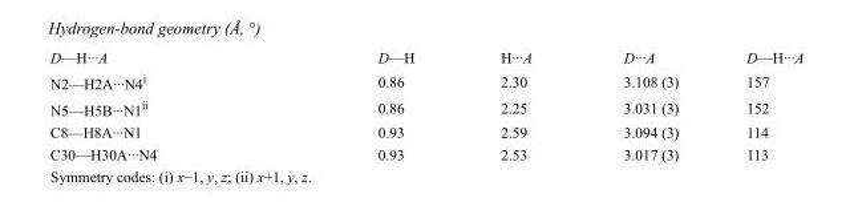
<table><tbody><tr><td>D—H···A</td><td>D—H</td><td>H···A</td><td>D···A</td><td>D—H···A</td></tr><tr><td>N2—H2A···N4<sup>i</sup></td><td>0.86</td><td>2.30</td><td>3.108 (3)</td><td>157</td></tr><tr><td>N5—H5B···N1<sup>ii</sup></td><td>0.86</td><td>2.25</td><td>3.031 (3)</td><td>152</td></tr><tr><td>C8—H8A···N1</td><td>0.93</td><td>2.59</td><td>3.094 (3)</td><td>114</td></tr><tr><td>C30—H30A···N4</td><td>0.93</td><td>2.53</td><td>3.017 (3)</td><td>113</td></tr></tbody></table>